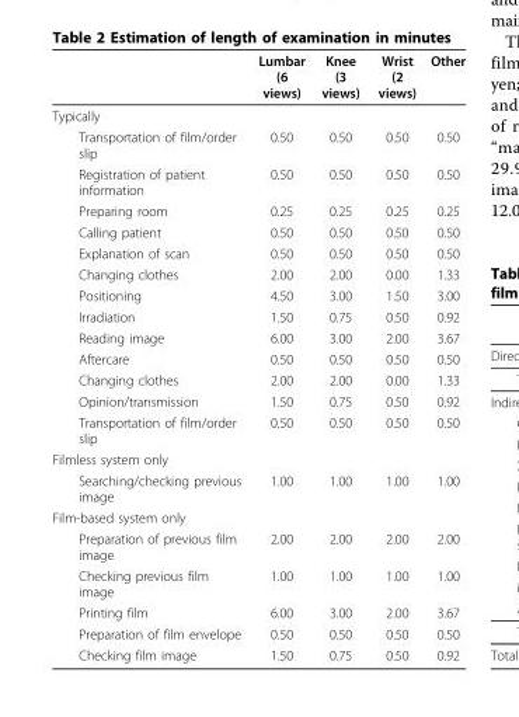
<table><thead><tr><td></td><td>Lumbar (6 views)</td><td>Knee (3 views)</td><td>Wrist (2 views)</td><td>Other</td></tr></thead><tbody><tr><td colspan="5">Typically</td></tr><tr><td>Transportation of film/order slip</td><td>0.50</td><td>0.50</td><td>0.50</td><td>0.50</td></tr><tr><td>Registration of patient information</td><td>0.50</td><td>0.50</td><td>0.50</td><td>0.50</td></tr><tr><td>Preparing room</td><td>0.25</td><td>0.25</td><td>0.25</td><td>0.25</td></tr><tr><td>Calling patient</td><td>0.50</td><td>0.50</td><td>0.50</td><td>0.50</td></tr><tr><td>Explanation of scan</td><td>0.50</td><td>0.50</td><td>0.50</td><td>0.50</td></tr><tr><td>Changing clothes</td><td>2.00</td><td>2.00</td><td>0.00</td><td>1.33</td></tr><tr><td>Positioning</td><td>4.50</td><td>3.00</td><td>1.50</td><td>3.00</td></tr><tr><td>Irradiation</td><td>1.50</td><td>0.75</td><td>0.50</td><td>0.92</td></tr><tr><td>Reading image</td><td>6.00</td><td>3.00</td><td>2.00</td><td>3.67</td></tr><tr><td>Aftercare</td><td>0.50</td><td>0.50</td><td>0.50</td><td>0.50</td></tr><tr><td>Changing clothes</td><td>2.00</td><td>2.00</td><td>0.00</td><td>1.33</td></tr><tr><td>Opinion/transmission</td><td>1.50</td><td>0.75</td><td>0.50</td><td>0.92</td></tr><tr><td>Transportation of film/order slip</td><td>0.50</td><td>0.50</td><td>0.50</td><td>0.50</td></tr><tr><td colspan="5">Filmless system only</td></tr><tr><td>Searching/checking previous image</td><td>1.00</td><td>1.00</td><td>1.00</td><td>1.00</td></tr><tr><td colspan="5">Film-based system only</td></tr><tr><td>Preparation of previous film image</td><td>2.00</td><td>2.00</td><td>2.00</td><td>2.00</td></tr><tr><td>Checking previous film image</td><td>1.00</td><td>1.00</td><td>1.00</td><td>1.00</td></tr><tr><td>Printing film</td><td>6.00</td><td>3.00</td><td>2.00</td><td>3.67</td></tr><tr><td>Preparation of film envelope</td><td>0.50</td><td>0.50</td><td>0.50</td><td>0.50</td></tr><tr><td>Checking film image</td><td>1.50</td><td>0.75</td><td>0.50</td><td>0.92</td></tr></tbody></table>